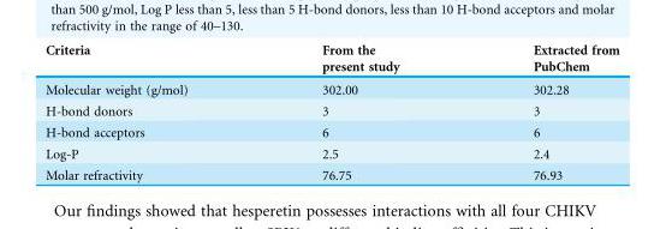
<table><thead><tr><td>Criteria</td><td>From the present study</td><td>Extracted from PubChem</td></tr></thead><tbody><tr><td>Molecular weight (g/mol)</td><td>302.00</td><td>302.28</td></tr><tr><td>H-bond donors</td><td>3</td><td>3</td></tr><tr><td>H-bond acceptors</td><td>6</td><td>6</td></tr><tr><td>Log-P</td><td>2.5</td><td>2.4</td></tr><tr><td>Molar refractivity</td><td>76.75</td><td>76.93</td></tr></tbody></table>